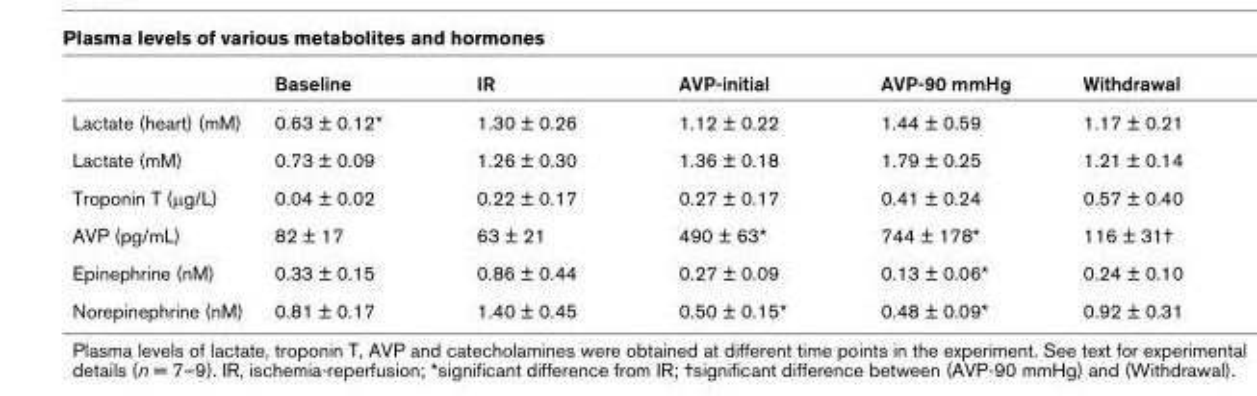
<table><thead><tr><td></td><td>Baseline</td><td>IR</td><td>AVP-initial</td><td>AVP-90 mmHg</td><td>Withdrawal</td></tr></thead><tbody><tr><td>Lactate (heart) (mM)</td><td>0.63 ± 0.12*</td><td>1.30 ± 0.26</td><td>1.12 ± 0.22</td><td>1.44 ± 0.59</td><td>1.17 ± 0.21</td></tr><tr><td>Lactate (mM)</td><td>0.73 ± 0.09</td><td>1.26 ± 0.30</td><td>1.36 ± 0.18</td><td>1.79 ± 0.25</td><td>1.21 ± 0.14</td></tr><tr><td>Troponin T (μg/L)</td><td>0.04 ± 0.02</td><td>0.22 ± 0.17</td><td>0.27 ± 0.17</td><td>0.41 ± 0.24</td><td>0.57 ± 0.40</td></tr><tr><td>AVP (pg/mL)</td><td>82 ± 17</td><td>63 ± 21</td><td>490 ± 63*</td><td>744 ± 178*</td><td>116 ± 31†</td></tr><tr><td>Epinephrine (nM)</td><td>0.33 ± 0.15</td><td>0.86 ± 0.44</td><td>0.27 ± 0.09</td><td>0.13 ± 0.06*</td><td>0.24 ± 0.10</td></tr><tr><td>Norepinephrine (nM)</td><td>0.81 ± 0.17</td><td>1.40 ± 0.45</td><td>0.50 ± 0.15*</td><td>0.48 ± 0.09*</td><td>0.92 ± 0.31</td></tr></tbody></table>